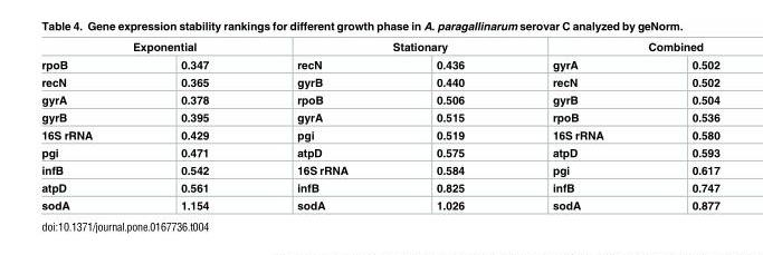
<table><thead><tr><td colspan="2">Exponential</td><td colspan="2">Stationary</td><td colspan="2">Combined</td></tr><tr><td>rpoB</td><td>0.347</td><td>recN</td><td>0.436</td><td>gyrA</td><td>0.502</td></tr></thead><tbody><tr><td>recN</td><td>0.365</td><td>gyrB</td><td>0.440</td><td>recN</td><td>0.502</td></tr><tr><td>gyrA</td><td>0.378</td><td>rpoB</td><td>0.506</td><td>gyrB</td><td>0.504</td></tr><tr><td>gyrB</td><td>0.395</td><td>gyrA</td><td>0.515</td><td>rpoB</td><td>0.536</td></tr><tr><td>16S rRNA</td><td>0.429</td><td>pgi</td><td>0.519</td><td>16S rRNA</td><td>0.580</td></tr><tr><td>pgi</td><td>0.471</td><td>atpD</td><td>0.575</td><td>atpD</td><td>0.593</td></tr><tr><td>infB</td><td>0.542</td><td>16S rRNA</td><td>0.584</td><td>pgi</td><td>0.617</td></tr><tr><td>atpD</td><td>0.561</td><td>infB</td><td>0.825</td><td>infB</td><td>0.747</td></tr><tr><td>sodA</td><td>1.154</td><td>sodA</td><td>1.026</td><td>sodA</td><td>0.877</td></tr></tbody></table>